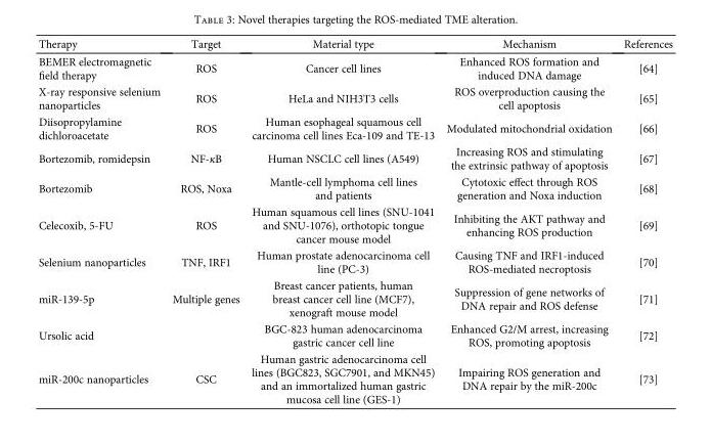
<table><thead><tr><td>Therapy</td><td>Target</td><td>Material type</td><td>Mechanism</td><td>References</td></tr></thead><tbody><tr><td>BEMER electromagnetic field therapy</td><td>ROS</td><td>Cancer cell lines</td><td>Enhanced ROS formation and induced DNA damage</td><td>[64]</td></tr><tr><td>X-ray responsive selenium nanoparticles</td><td>ROS</td><td>HeLa and NIH3T3 cells</td><td>ROS overproduction causing the cell apoptosis</td><td>[65]</td></tr><tr><td>Diisopropylamine dichloroacetate</td><td>ROS</td><td>Human esophageal squamous cell carcinoma cell lines Eca-109 and TE-13</td><td>Modulated mitochondrial oxidation</td><td>[66]</td></tr><tr><td>Bortezomib, romidepsin</td><td>NF-κB</td><td>Human NSCLC cell lines (A549)</td><td>Increasing ROS and stimulating the extrinsic pathway of apoptosis</td><td>[67]</td></tr><tr><td>Bortezomib</td><td>ROS, Noxa</td><td>Mantle-cell lymphoma cell lines and patients</td><td>Cytotoxic effect through ROS generation and Noxa induction</td><td>[68]</td></tr><tr><td>Celecoxib, 5-FU</td><td>ROS</td><td>Human squamous cell lines (SNU-1041 and SNU-1076), orthotopic tongue cancer mouse model</td><td>Inhibiting the AKT pathway and enhancing ROS production</td><td>[69]</td></tr><tr><td>Selenium nanoparticles</td><td>TNF, IRF1</td><td>Human prostate adenocarcinoma cell line (PC-3)</td><td>Causing TNF and IRF1-induced ROS-mediated necroptosis</td><td>[70]</td></tr><tr><td>miR-139-5p</td><td>Multiple genes</td><td>Breast cancer patients, human breast cancer cell line (MCF7), xenograft mouse model</td><td>Suppression of gene networks of DNA repair and ROS defense</td><td>[71]</td></tr><tr><td>Ursolic acid</td><td></td><td>BGC-823 human adenocarcinoma gastric cancer cell line</td><td>Enhanced G2/M arrest, increasing ROS, promoting apoptosis</td><td>[72]</td></tr><tr><td>miR-200c nanoparticles</td><td>CSC</td><td>Human gastric adenocarcinoma cell lines (BGC823, SGC7901, and MKN45) and an immortalized human gastric mucosa cell line (GES-1)</td><td>Impairing ROS generation and DNA repair by the miR-200c</td><td>[73]</td></tr></tbody></table>